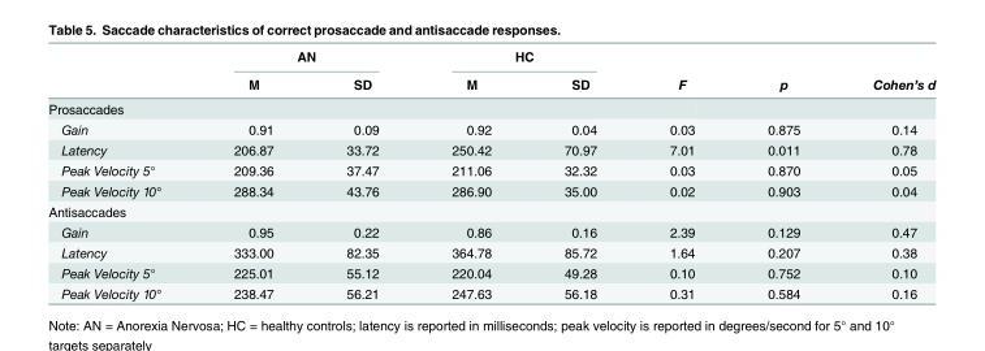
<table><thead><tr><td rowspan="2"></td><td colspan="2">AN</td><td colspan="2">HC</td><td rowspan="2">F</td><td rowspan="2">p</td><td rowspan="2">Cohen’s d</td></tr><tr><td>M</td><td>SD</td><td>M</td><td>SD</td></tr></thead><tbody><tr><td colspan="8">Prosaccades</td></tr><tr><td>Gain</td><td>0.91</td><td>0.09</td><td>0.92</td><td>0.04</td><td>0.03</td><td>0.875</td><td>0.14</td></tr><tr><td>Latency</td><td>206.87</td><td>33.72</td><td>250.42</td><td>70.97</td><td>7.01</td><td>0.011</td><td>0.78</td></tr><tr><td>Peak Velocity 5°</td><td>209.36</td><td>37.47</td><td>211.06</td><td>32.32</td><td>0.03</td><td>0.870</td><td>0.05</td></tr><tr><td>Peak Velocity 10°</td><td>288.34</td><td>43.76</td><td>286.90</td><td>35.00</td><td>0.02</td><td>0.903</td><td>0.04</td></tr><tr><td colspan="8">Antisaccades</td></tr><tr><td>Gain</td><td>0.95</td><td>0.22</td><td>0.86</td><td>0.16</td><td>2.39</td><td>0.129</td><td>0.47</td></tr><tr><td>Latency</td><td>333.00</td><td>82.35</td><td>364.78</td><td>85.72</td><td>1.64</td><td>0.207</td><td>0.38</td></tr><tr><td>Peak Velocity 5°</td><td>225.01</td><td>55.12</td><td>220.04</td><td>49.28</td><td>0.10</td><td>0.752</td><td>0.10</td></tr><tr><td>Peak Velocity 10°</td><td>238.47</td><td>56.21</td><td>247.63</td><td>56.18</td><td>0.31</td><td>0.584</td><td>0.16</td></tr></tbody></table>